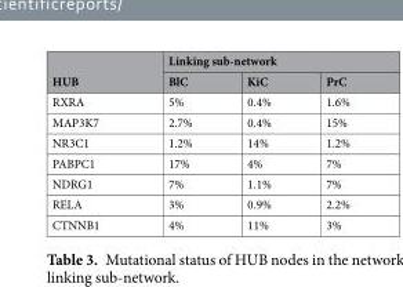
<table><thead><tr><td rowspan="2">HUB</td><td colspan="3">Linking sub-network</td></tr><tr><td>BlC</td><td>KiC</td><td>PrC</td></tr></thead><tbody><tr><td>RXRA</td><td>5%</td><td>0.4%</td><td>1.6%</td></tr><tr><td>MAP3K7</td><td>2.7%</td><td>0.4%</td><td>15%</td></tr><tr><td>NR3C1</td><td>1.2%</td><td>14%</td><td>1.2%</td></tr><tr><td>PABPC1</td><td>17%</td><td>4%</td><td>7%</td></tr><tr><td>NDRG1</td><td>7%</td><td>1.1%</td><td>7%</td></tr><tr><td>RELA</td><td>3%</td><td>0.9%</td><td>2.2%</td></tr><tr><td>CTNNB1</td><td>4%</td><td>11%</td><td>3%</td></tr></tbody></table>